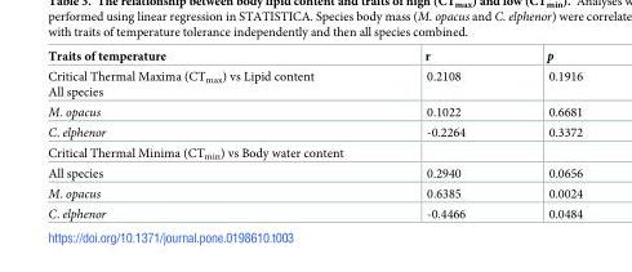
<table><thead><tr><td>Traits of temperature</td><td>r</td><td>p</td></tr></thead><tbody><tr><td>Critical Thermal Maxima (CT<sub>max</sub>) vs Lipid content All species</td><td>0.2108</td><td>0.1916</td></tr><tr><td>M. opacus</td><td>0.1022</td><td>0.6681</td></tr><tr><td>C. elphenor</td><td>-0.2264</td><td>0.3372</td></tr><tr><td colspan="3">Critical Thermal Minima (CT<sub>min</sub>) vs Body water content</td></tr><tr><td>All species</td><td>0.2940</td><td>0.0656</td></tr><tr><td>M. opacus</td><td>0.6385</td><td>0.0024</td></tr><tr><td>C. elphenor</td><td>-0.4466</td><td>0.0484</td></tr></tbody></table>